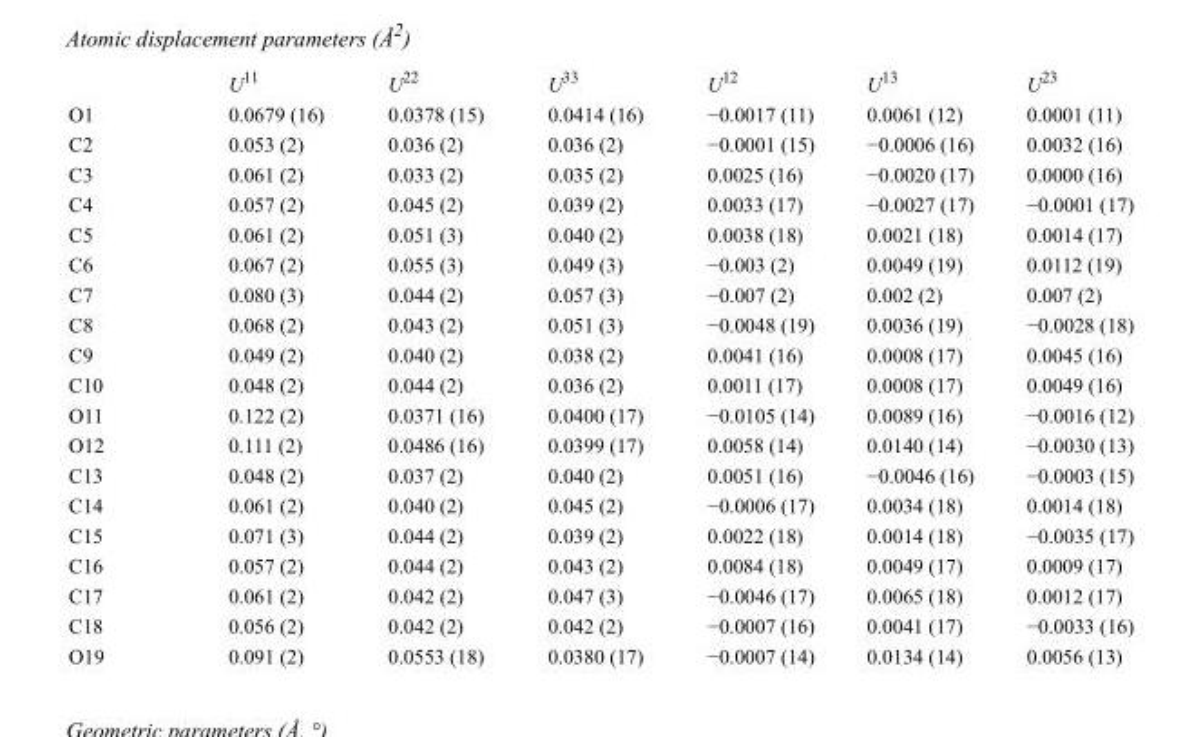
<table><thead><tr><td></td><td>U<sup>11</sup></td><td>U<sup>22</sup></td><td>U<sup>33</sup></td><td>U<sup>12</sup></td><td>U<sup>13</sup></td><td>U<sup>23</sup></td></tr></thead><tbody><tr><td>O1</td><td>0.0679 (16)</td><td>0.0378 (15)</td><td>0.0414 (16)</td><td>−0.0017 (11)</td><td>0.0061 (12)</td><td>0.0001 (11)</td></tr><tr><td>C2</td><td>0.053 (2)</td><td>0.036 (2)</td><td>0.036 (2)</td><td>−0.0001 (15)</td><td>−0.0006 (16)</td><td>0.0032 (16)</td></tr><tr><td>C3</td><td>0.061 (2)</td><td>0.033 (2)</td><td>0.035 (2)</td><td>0.0025 (16)</td><td>−0.0020 (17)</td><td>0.0000 (16)</td></tr><tr><td>C4</td><td>0.057 (2)</td><td>0.045 (2)</td><td>0.039 (2)</td><td>0.0033 (17)</td><td>−0.0027 (17)</td><td>−0.0001 (17)</td></tr><tr><td>C5</td><td>0.061 (2)</td><td>0.051 (3)</td><td>0.040 (2)</td><td>0.0038 (18)</td><td>0.0021 (18)</td><td>0.0014 (17)</td></tr><tr><td>C6</td><td>0.067 (2)</td><td>0.055 (3)</td><td>0.049 (3)</td><td>−0.003 (2)</td><td>0.0049 (19)</td><td>0.0112 (19)</td></tr><tr><td>C7</td><td>0.080 (3)</td><td>0.044 (2)</td><td>0.057 (3)</td><td>−0.007 (2)</td><td>0.002 (2)</td><td>0.007 (2)</td></tr><tr><td>C8</td><td>0.068 (2)</td><td>0.043 (2)</td><td>0.051 (3)</td><td>−0.0048 (19)</td><td>0.0036 (19)</td><td>−0.0028 (18)</td></tr><tr><td>C9</td><td>0.049 (2)</td><td>0.040 (2)</td><td>0.038 (2)</td><td>0.0041 (16)</td><td>0.0008 (17)</td><td>0.0045 (16)</td></tr><tr><td>C10</td><td>0.048 (2)</td><td>0.044 (2)</td><td>0.036 (2)</td><td>0.0011 (17)</td><td>0.0008 (17)</td><td>0.0049 (16)</td></tr><tr><td>O11</td><td>0.122 (2)</td><td>0.0371 (16)</td><td>0.0400 (17)</td><td>−0.0105 (14)</td><td>0.0089 (16)</td><td>−0.0016 (12)</td></tr><tr><td>O12</td><td>0.111 (2)</td><td>0.0486 (16)</td><td>0.0399 (17)</td><td>0.0058 (14)</td><td>0.0140 (14)</td><td>−0.0030 (13)</td></tr><tr><td>C13</td><td>0.048 (2)</td><td>0.037 (2)</td><td>0.040 (2)</td><td>0.0051 (16)</td><td>−0.0046 (16)</td><td>−0.0003 (15)</td></tr><tr><td>C14</td><td>0.061 (2)</td><td>0.040 (2)</td><td>0.045 (2)</td><td>−0.0006 (17)</td><td>0.0034 (18)</td><td>0.0014 (18)</td></tr><tr><td>C15</td><td>0.071 (3)</td><td>0.044 (2)</td><td>0.039 (2)</td><td>0.0022 (18)</td><td>0.0014 (18)</td><td>−0.0035 (17)</td></tr><tr><td>C16</td><td>0.057 (2)</td><td>0.044 (2)</td><td>0.043 (2)</td><td>0.0084 (18)</td><td>0.0049 (17)</td><td>0.0009 (17)</td></tr><tr><td>C17</td><td>0.061 (2)</td><td>0.042 (2)</td><td>0.047 (3)</td><td>−0.0046 (17)</td><td>0.0065 (18)</td><td>0.0012 (17)</td></tr><tr><td>C18</td><td>0.056 (2)</td><td>0.042 (2)</td><td>0.042 (2)</td><td>−0.0007 (16)</td><td>0.0041 (17)</td><td>−0.0033 (16)</td></tr><tr><td>O19</td><td>0.091 (2)</td><td>0.0553 (18)</td><td>0.0380 (17)</td><td>−0.0007 (14)</td><td>0.0134 (14)</td><td>0.0056 (13)</td></tr></tbody></table>